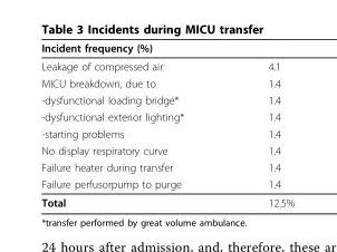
<table><thead><tr><td colspan="2">Incident frequency (%)</td></tr><tr><td>Leakage of compressed air</td><td>4.1</td></tr></thead><tbody><tr><td>MICU breakdown, due to</td><td>1.4</td></tr><tr><td>-dysfunctional loading bridge*</td><td>1.4</td></tr><tr><td>-dysfunctional exterior lighting*</td><td>1.4</td></tr><tr><td>-starting problems</td><td>1.4</td></tr><tr><td>No display respiratory curve</td><td>1.4</td></tr><tr><td>Failure heater during transfer</td><td>1.4</td></tr><tr><td>Failure perfusorpump to purge</td><td>1.4</td></tr><tr><td>Total</td><td>12.5%</td></tr></tbody></table>